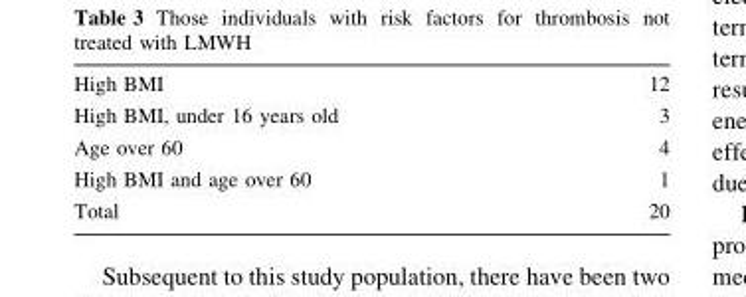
<table><tbody><tr><td>High BMI</td><td>12</td></tr><tr><td>High BMI, under 16 years old</td><td>3</td></tr><tr><td>Age over 60</td><td>4</td></tr><tr><td>High BMI and age over 60</td><td>1</td></tr><tr><td>Total</td><td>20</td></tr></tbody></table>